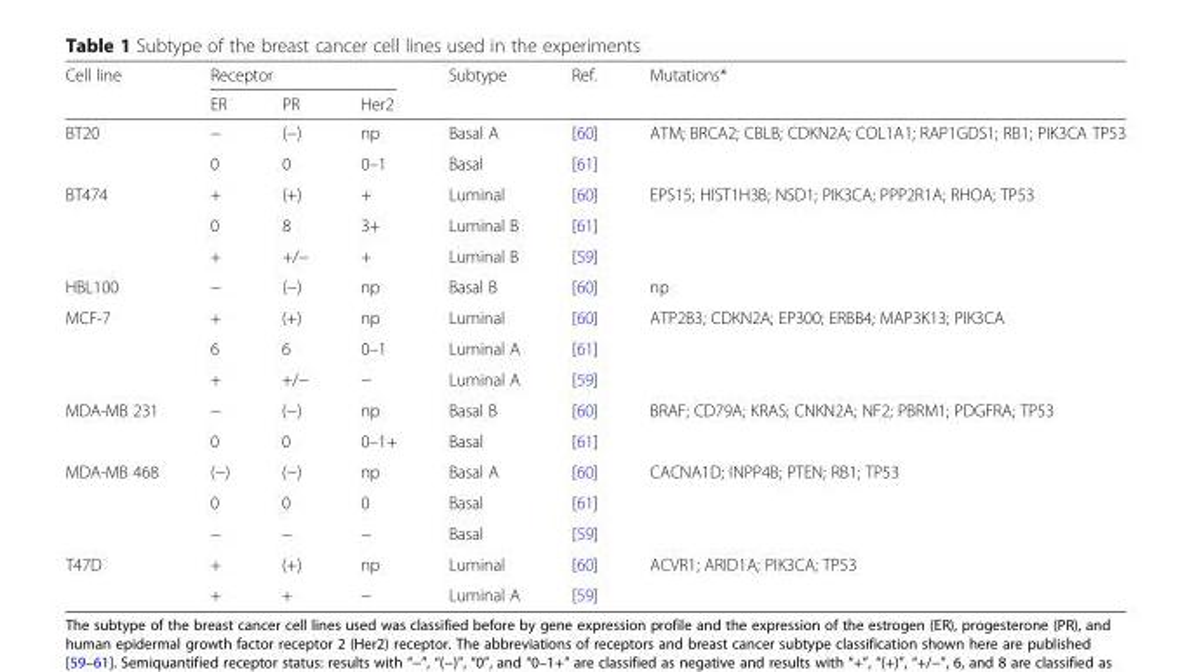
<table><thead><tr><td rowspan="2">Cell line</td><td colspan="3">Receptor</td><td rowspan="2">Subtype</td><td rowspan="2">Ref.</td><td rowspan="2">Mutations*</td></tr><tr><td>ER</td><td>PR</td><td>Her2</td></tr></thead><tbody><tr><td rowspan="2">BT20</td><td>−</td><td>(−)</td><td>np</td><td>Basal A</td><td>[60]</td><td rowspan="2">ATM; BRCA2; CBLB; CDKN2A; COL1A1; RAP1GDS1; RB1; PIK3CA TP53</td></tr><tr><td>0</td><td>0</td><td>0–1</td><td>Basal</td><td>[61]</td></tr><tr><td rowspan="3">BT474</td><td>+</td><td>(+)</td><td>+</td><td>Luminal</td><td>[60]</td><td rowspan="2">EPS15; HIST1H3B; NSD1; PIK3CA; PPP2R1A; RHOA; TP53</td></tr><tr><td>0</td><td>8</td><td>3+</td><td>Luminal B</td><td>[61]</td></tr><tr><td>+</td><td>+/−</td><td>+</td><td>Luminal B</td><td>[59]</td><td></td></tr><tr><td>HBL100</td><td>−</td><td>(−)</td><td>np</td><td>Basal B</td><td>[60]</td><td>np</td></tr><tr><td rowspan="3">MCF-7</td><td>+</td><td>(+)</td><td>np</td><td>Luminal</td><td>[60]</td><td rowspan="3">ATP2B3; CDKN2A; EP300; ERBB4; MAP3K13; PIK3CA</td></tr><tr><td>6</td><td>6</td><td>0–1</td><td>Luminal A</td><td>[61]</td></tr><tr><td>+</td><td>+/−</td><td>−</td><td>Luminal A</td><td>[59]</td></tr><tr><td rowspan="2">MDA-MB 231</td><td>−</td><td>(−)</td><td>np</td><td>Basal B</td><td>[60]</td><td rowspan="2">BRAF; CD79A; KRAS; CNKN2A; NF2; PBRM1; PDGFRA; TP53</td></tr><tr><td>0</td><td>0</td><td>0–1+</td><td>Basal</td><td>[61]</td></tr><tr><td rowspan="3">MDA-MB 468</td><td>(−)</td><td>(−)</td><td>np</td><td>Basal A</td><td>[60]</td><td rowspan="3">CACNA1D; INPP4B; PTEN; RB1; TP53</td></tr><tr><td>0</td><td>0</td><td>0</td><td>Basal</td><td>[61]</td></tr><tr><td>−</td><td>−</td><td>−</td><td>Basal</td><td>[59]</td></tr><tr><td rowspan="2">T47D</td><td>+</td><td>(+)</td><td>np</td><td>Luminal</td><td>[60]</td><td rowspan="2">ACVR1; ARID1A; PIK3CA; TP53</td></tr><tr><td>+</td><td>+</td><td>−</td><td>Luminal A</td><td>[59]</td></tr></tbody></table>